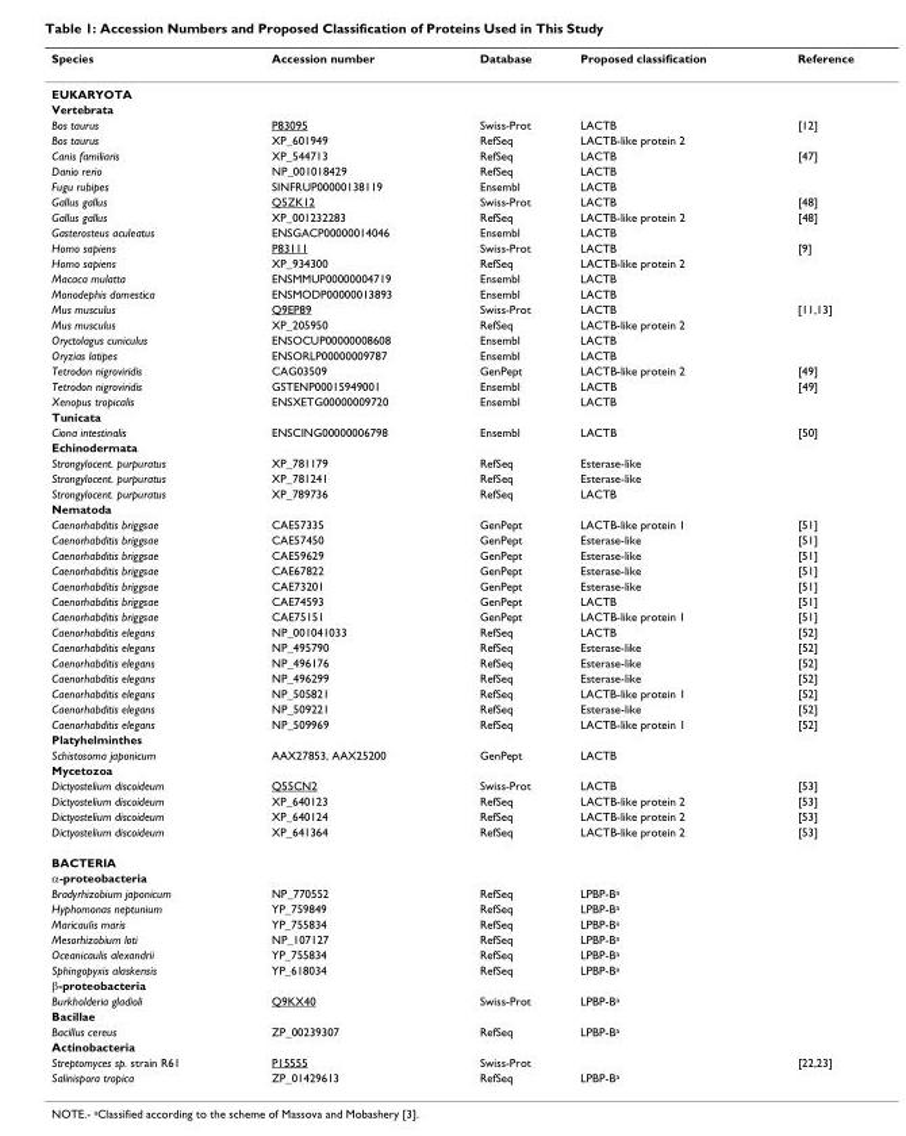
<table><thead><tr><td>Species</td><td>Accession number</td><td>Database</td><td>Proposed classification</td><td>Reference</td></tr></thead><tbody><tr><td colspan="5">EUKARYOTA</td></tr><tr><td colspan="5">Vertebrata</td></tr><tr><td>Bos taurus</td><td>P83095</td><td>Swiss-Prot</td><td>LACTB</td><td>[12]</td></tr><tr><td>Bos taurus</td><td>XP_601949</td><td>RefSeq</td><td>LACTB-like protein 2</td><td></td></tr><tr><td>Canis familiaris</td><td>XP_544713</td><td>RefSeq</td><td>LACTB</td><td>[47]</td></tr><tr><td>Danio rerio</td><td>NP_001018429</td><td>RefSeq</td><td>LACTB</td><td></td></tr><tr><td>Fugu rubipes</td><td>SINFRUP00000138119</td><td>Ensembl</td><td>LACTB</td><td></td></tr><tr><td>Gallus gallus</td><td>Q5ZK12</td><td>Swiss-Prot</td><td>LACTB</td><td>[48]</td></tr><tr><td>Gallus gallus</td><td>XP_001232283</td><td>RefSeq</td><td>LACTB-like protein 2</td><td>[48]</td></tr><tr><td>Gasterosteus aculeatus</td><td>ENSGACP00000014046</td><td>Ensembl</td><td>LACTB</td><td></td></tr><tr><td>Homo sapiens</td><td>P83111</td><td>Swiss-Prot</td><td>LACTB</td><td>[9]</td></tr><tr><td>Homo sapiens</td><td>XP_934300</td><td>RefSeq</td><td>LACTB-like protein 2</td><td></td></tr><tr><td>Macaca mulatta</td><td>ENSMMUP00000004719</td><td>Ensembl</td><td>LACTB</td><td></td></tr><tr><td>Monodephis domestica</td><td>ENSMODP00000013893</td><td>Ensembl</td><td>LACTB</td><td></td></tr><tr><td>Mus musculus</td><td>Q9EP89</td><td>Swiss-Prot</td><td>LACTB</td><td>[11,13]</td></tr><tr><td>Mus musculus</td><td>XP_205950</td><td>RefSeq</td><td>LACTB-like protein 2</td><td></td></tr><tr><td>Oryctolagus cuniculus</td><td>ENSOCUP00000008608</td><td>Ensembl</td><td>LACTB</td><td></td></tr><tr><td>Oryzias latipes</td><td>ENSORLP00000009787</td><td>Ensembl</td><td>LACTB</td><td></td></tr><tr><td>Tetrodon nigroviridis</td><td>CAG03509</td><td>GenPept</td><td>LACTB-like protein 2</td><td>[49]</td></tr><tr><td>Tetrodon nigroviridis</td><td>GSTENP00015949001</td><td>Ensembl</td><td>LACTB</td><td>[49]</td></tr><tr><td>Xenopus tropicalis</td><td>ENSXETG00000009720</td><td>Ensembl</td><td>LACTB</td><td></td></tr><tr><td colspan="5">Tunicata</td></tr><tr><td>Ciona intestinalis</td><td>ENSCING00000006798</td><td>Ensembl</td><td>LACTB</td><td>[50]</td></tr><tr><td colspan="5">Echinodermata</td></tr><tr><td>Strongylocent. purpuratus</td><td>XP_781179</td><td>RefSeq</td><td>Esterase-like</td><td></td></tr><tr><td>Strongylocent. purpuratus</td><td>XP_781241</td><td>RefSeq</td><td>Esterase-like</td><td></td></tr><tr><td>Strongylocent. purpuratus</td><td>XP_789736</td><td>RefSeq</td><td>LACTB</td><td></td></tr><tr><td colspan="5">Nematoda</td></tr><tr><td>Caenorhabditis briggsae</td><td>CAE57335</td><td>GenPept</td><td>LACTB-like protein 1</td><td>[51]</td></tr><tr><td>Caenorhabditis briggsae</td><td>CAE57450</td><td>GenPept</td><td>Esterase-like</td><td>[51]</td></tr><tr><td>Caenorhabditis briggsae</td><td>CAE59629</td><td>GenPept</td><td>Esterase-like</td><td>[51]</td></tr><tr><td>Caenorhabditis briggsae</td><td>CAE67822</td><td>GenPept</td><td>Esterase-like</td><td>[51]</td></tr><tr><td>Caenorhabditis briggsae</td><td>CAE73201</td><td>GenPept</td><td>Esterase-like</td><td>[51]</td></tr><tr><td>Caenorhabditis briggsae</td><td>CAE74593</td><td>GenPept</td><td>LACTB</td><td>[51]</td></tr><tr><td>Caenorhabditis briggsae</td><td>CAE75151</td><td>GenPept</td><td>LACTB-like protein 1</td><td>[51]</td></tr><tr><td>Caenorhabditis elegans</td><td>NP_001041033</td><td>RefSeq</td><td>LACTB</td><td>[52]</td></tr><tr><td>Caenorhabditis elegans</td><td>NP_495790</td><td>RefSeq</td><td>Esterase-like</td><td>[52]</td></tr><tr><td>Caenorhabditis elegans</td><td>NP_496176</td><td>RefSeq</td><td>Esterase-like</td><td>[52]</td></tr><tr><td>Caenorhabditis elegans</td><td>NP_496299</td><td>RefSeq</td><td>Esterase-like</td><td>[52]</td></tr><tr><td>Caenorhabditis elegans</td><td>NP_505821</td><td>RefSeq</td><td>LACTB-like protein 1</td><td>[52]</td></tr><tr><td>Caenorhabditis elegans</td><td>NP_509221</td><td>RefSeq</td><td>Esterase-like</td><td>[52]</td></tr><tr><td>Caenorhabditis elegans</td><td>NP_509969</td><td>RefSeq</td><td>LACTB-like protein 1</td><td>[52]</td></tr><tr><td colspan="5">Platyhelminthes</td></tr><tr><td>Schistosoma japonicum</td><td>AAX27853, AAX25200</td><td>GenPept</td><td>LACTB</td><td></td></tr><tr><td colspan="5">Mycetozoa</td></tr><tr><td>Dictyostelium discoideum</td><td>Q55CN2</td><td>Swiss-Prot</td><td>LACTB</td><td>[53]</td></tr><tr><td>Dictyostelium discoideum</td><td>XP_640123</td><td>RefSeq</td><td>LACTB-like protein 2</td><td>[53]</td></tr><tr><td>Dictyostelium discoideum</td><td>XP_640124</td><td>RefSeq</td><td>LACTB-like protein 2</td><td>[53]</td></tr><tr><td>Dictyostelium discoideum</td><td>XP_641364</td><td>RefSeq</td><td>LACTB-like protein 2</td><td>[53]</td></tr><tr><td colspan="5">BACTERIA</td></tr><tr><td colspan="5">α-proteobacteria</td></tr><tr><td>Bradyrhizobium japonicum</td><td>NP_770552</td><td>RefSeq</td><td>LPBP-B<sup>a</sup></td><td></td></tr><tr><td>Hyphomonas neptunium</td><td>YP_759849</td><td>RefSeq</td><td>LPBP-B<sup>a</sup></td><td></td></tr><tr><td>Maricaulis maris</td><td>YP_755834</td><td>RefSeq</td><td>LPBP-B<sup>a</sup></td><td></td></tr><tr><td>Mesorhizobium loti</td><td>NP_107127</td><td>RefSeq</td><td>LPBP-B<sup>a</sup></td><td></td></tr><tr><td>Oceanicaulis alexandrii</td><td>YP_755834</td><td>RefSeq</td><td>LPBP-B<sup>a</sup></td><td></td></tr><tr><td>Sphingopyxis alaskensis</td><td>YP_618034</td><td>RefSeq</td><td>LPBP-B<sup>a</sup></td><td></td></tr><tr><td colspan="5">β-proteobacteria</td></tr><tr><td>Burkholderia gladioli</td><td>Q9KX40</td><td>Swiss-Prot</td><td>LPBP-B<sup>a</sup></td><td></td></tr><tr><td colspan="5">Bacillae</td></tr><tr><td>Bacillus cereus</td><td>ZP_00239307</td><td>RefSeq</td><td>LPBP-B<sup>a</sup></td><td></td></tr><tr><td colspan="5">Actinobacteria</td></tr><tr><td>Streptomyces sp. strain R61</td><td>P15555</td><td>Swiss-Prot</td><td></td><td>[22,23]</td></tr><tr><td>Salinispora tropica</td><td>ZP_01429613</td><td>RefSeq</td><td>LPBP-B<sup>a</sup></td><td></td></tr></tbody></table>